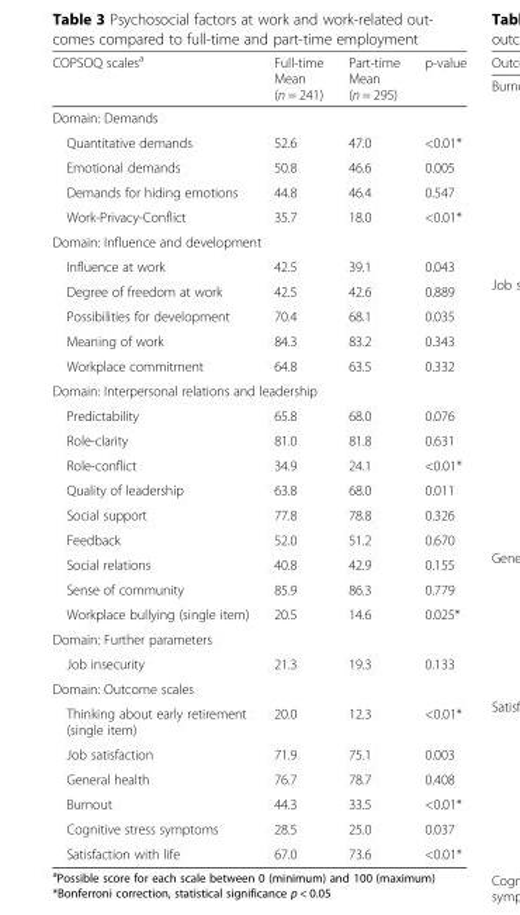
<table><thead><tr><td>COPSOQ scales<sup>a</sup></td><td>Full-time Mean (n = 241)</td><td>Part-time Mean (n = 295)</td><td>p-value</td></tr></thead><tbody><tr><td colspan="4">Domain: Demands</td></tr><tr><td>Quantitative demands</td><td>52.6</td><td>47.0</td><td>&lt;0.01*</td></tr><tr><td>Emotional demands</td><td>50.8</td><td>46.6</td><td>0.005</td></tr><tr><td>Demands for hiding emotions</td><td>44.8</td><td>46.4</td><td>0.547</td></tr><tr><td>Work-Privacy-Conflict</td><td>35.7</td><td>18.0</td><td>&lt;0.01*</td></tr><tr><td colspan="4">Domain: Influence and development</td></tr><tr><td>Influence at work</td><td>42.5</td><td>39.1</td><td>0.043</td></tr><tr><td>Degree of freedom at work</td><td>42.5</td><td>42.6</td><td>0.889</td></tr><tr><td>Possibilities for development</td><td>70.4</td><td>68.1</td><td>0.035</td></tr><tr><td>Meaning of work</td><td>84.3</td><td>83.2</td><td>0.343</td></tr><tr><td>Workplace commitment</td><td>64.8</td><td>63.5</td><td>0.332</td></tr><tr><td colspan="4">Domain: Interpersonal relations and leadership</td></tr><tr><td>Predictability</td><td>65.8</td><td>68.0</td><td>0.076</td></tr><tr><td>Role-clarity</td><td>81.0</td><td>81.8</td><td>0.631</td></tr><tr><td>Role-conflict</td><td>34.9</td><td>24.1</td><td>&lt;0.01*</td></tr><tr><td>Quality of leadership</td><td>63.8</td><td>68.0</td><td>0.011</td></tr><tr><td>Social support</td><td>77.8</td><td>78.8</td><td>0.326</td></tr><tr><td>Feedback</td><td>52.0</td><td>51.2</td><td>0.670</td></tr><tr><td>Social relations</td><td>40.8</td><td>42.9</td><td>0.155</td></tr><tr><td>Sense of community</td><td>85.9</td><td>86.3</td><td>0.779</td></tr><tr><td>Workplace bullying (single item)</td><td>20.5</td><td>14.6</td><td>0.025*</td></tr><tr><td colspan="4">Domain: Further parameters</td></tr><tr><td>Job insecurity</td><td>21.3</td><td>19.3</td><td>0.133</td></tr><tr><td colspan="4">Domain: Outcome scales</td></tr><tr><td>Thinking about early retirement (single item)</td><td>20.0</td><td>12.3</td><td>&lt;0.01*</td></tr><tr><td>Job satisfaction</td><td>71.9</td><td>75.1</td><td>0.003</td></tr><tr><td>General health</td><td>76.7</td><td>78.7</td><td>0.408</td></tr><tr><td>Burnout</td><td>44.3</td><td>33.5</td><td>&lt;0.01*</td></tr><tr><td>Cognitive stress symptoms</td><td>28.5</td><td>25.0</td><td>0.037</td></tr><tr><td>Satisfaction with life</td><td>67.0</td><td>73.6</td><td>&lt;0.01*</td></tr></tbody></table>